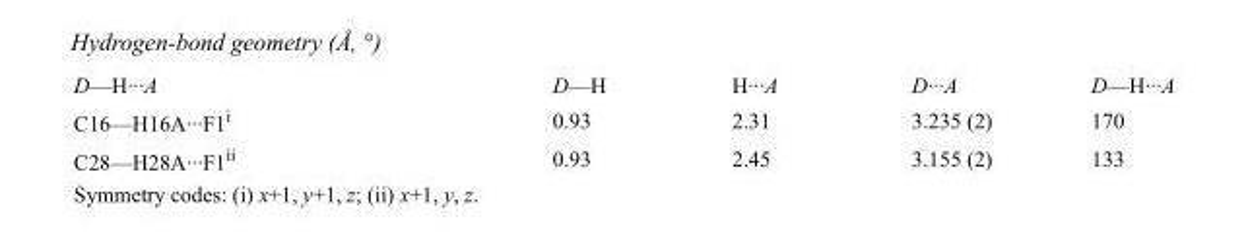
<table><tbody><tr><td>D—H···A</td><td>D—H</td><td>H···A</td><td>D···A</td><td>D—H···A</td></tr><tr><td>C16—H16A···F1<sup>i</sup></td><td>0.93</td><td>2.31</td><td>3.235 (2)</td><td>170</td></tr><tr><td>C28—H28A···F1<sup>ii</sup></td><td>0.93</td><td>2.45</td><td>3.155 (2)</td><td>133</td></tr></tbody></table>